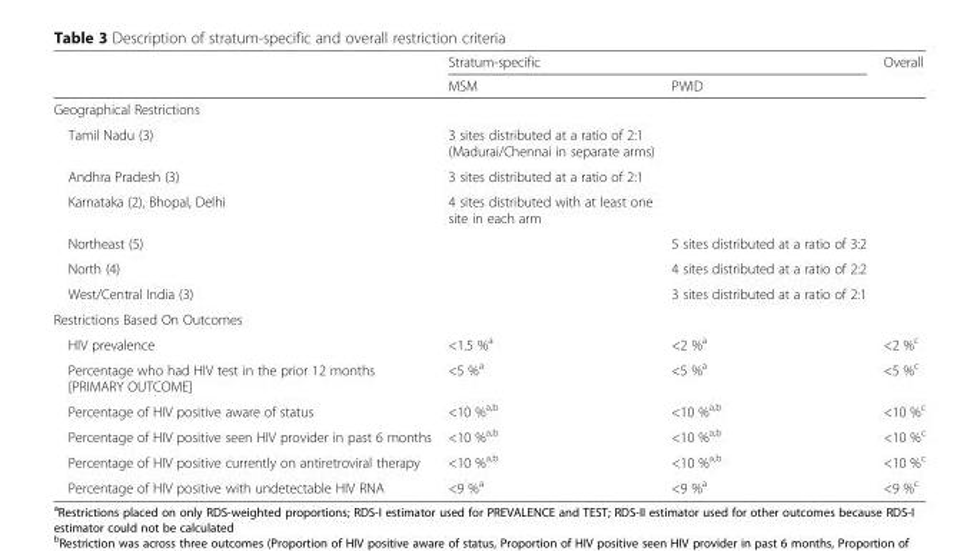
<table><thead><tr><td rowspan="2"></td><td colspan="2">Stratum-specific</td><td rowspan="2">Overall</td></tr><tr><td>MSM</td><td>PWID</td></tr></thead><tbody><tr><td colspan="4">Geographical Restrictions</td></tr><tr><td>Tamil Nadu (3)</td><td>3 sites distributed at a ratio of 2:1 (Madurai/Chennai in separate arms)</td><td></td><td></td></tr><tr><td>Andhra Pradesh (3)</td><td>3 sites distributed at a ratio of 2:1</td><td></td><td></td></tr><tr><td>Karnataka (2), Bhopal, Delhi</td><td>4 sites distributed with at least one site in each arm</td><td></td><td></td></tr><tr><td>Northeast (5)</td><td></td><td>5 sites distributed at a ratio of 3:2</td><td></td></tr><tr><td>North (4)</td><td></td><td>4 sites distributed at a ratio of 2:2</td><td></td></tr><tr><td>West/Central India (3)</td><td></td><td>3 sites distributed at a ratio of 2:1</td><td></td></tr><tr><td colspan="4">Restrictions Based On Outcomes</td></tr><tr><td>HIV prevalence</td><td>&lt;1.5 %<sup>a</sup></td><td>&lt;2 %<sup>a</sup></td><td>&lt;2 %<sup>c</sup></td></tr><tr><td>Percentage who had HIV test in the prior 12 months [PRIMARY OUTCOME]</td><td>&lt;5 %<sup>a</sup></td><td>&lt;5 %<sup>a</sup></td><td>&lt;5 %<sup>c</sup></td></tr><tr><td>Percentage of HIV positive aware of status</td><td>&lt;10 %<sup>a,b</sup></td><td>&lt;10 %<sup>a,b</sup></td><td>&lt;10 %<sup>c</sup></td></tr><tr><td>Percentage of HIV positive seen HIV provider in past 6 months</td><td>&lt;10 %<sup>a,b</sup></td><td>&lt;10 %<sup>a,b</sup></td><td>&lt;10 %<sup>c</sup></td></tr><tr><td>Percentage of HIV positive currently on antiretroviral therapy</td><td>&lt;10 %<sup>a,b</sup></td><td>&lt;10 %<sup>a,b</sup></td><td>&lt;10 %<sup>c</sup></td></tr><tr><td>Percentage of HIV positive with undetectable HIV RNA</td><td>&lt;9 %<sup>a</sup></td><td>&lt;9 %<sup>a</sup></td><td>&lt;9 %<sup>c</sup></td></tr></tbody></table>